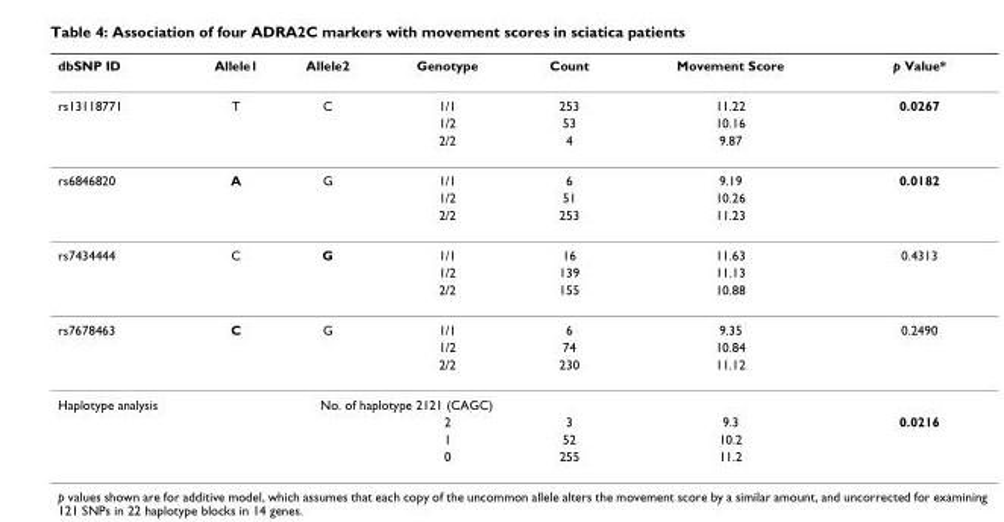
<table><thead><tr><td>dbSNP ID</td><td>Allele1</td><td>Allele2</td><td>Genotype</td><td>Count</td><td>Movement Score</td><td>p Value*</td></tr></thead><tbody><tr><td rowspan="3">rs13118771</td><td>T</td><td>C</td><td>1/1</td><td>253</td><td>11.22</td><td>0.0267</td></tr><tr><td></td><td></td><td>1/2</td><td>53</td><td>10.16</td><td></td></tr><tr><td></td><td></td><td>2/2</td><td>4</td><td>9.87</td><td></td></tr><tr><td rowspan="3">rs6846820</td><td>A</td><td>G</td><td>1/1</td><td>6</td><td>9.19</td><td>0.0182</td></tr><tr><td></td><td></td><td>1/2</td><td>51</td><td>10.26</td><td></td></tr><tr><td></td><td></td><td>2/2</td><td>253</td><td>11.23</td><td></td></tr><tr><td rowspan="3">rs7434444</td><td>C</td><td>G</td><td>1/1</td><td>16</td><td>11.63</td><td>0.4313</td></tr><tr><td></td><td></td><td>1/2</td><td>139</td><td>11.13</td><td></td></tr><tr><td></td><td></td><td>2/2</td><td>155</td><td>10.88</td><td></td></tr><tr><td rowspan="3">rs7678463</td><td>C</td><td>G</td><td>1/1</td><td>6</td><td>9.35</td><td>0.2490</td></tr><tr><td></td><td></td><td>1/2</td><td>74</td><td>10.84</td><td></td></tr><tr><td></td><td></td><td>2/2</td><td>230</td><td>11.12</td><td></td></tr><tr><td rowspan="4">Haplotype analysis</td><td colspan="4">No. of haplotype 2121 (CAGC)</td><td></td><td></td></tr><tr><td></td><td></td><td>2</td><td>3</td><td>9.3</td><td>0.0216</td></tr><tr><td></td><td></td><td>1</td><td>52</td><td>10.2</td><td></td></tr><tr><td></td><td></td><td>0</td><td>255</td><td>11.2</td><td></td></tr></tbody></table>